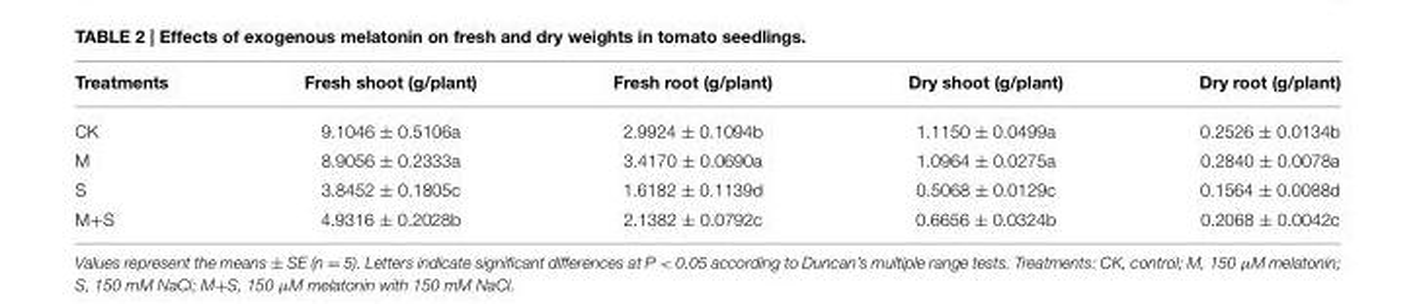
<table><thead><tr><td>Treatments</td><td>Fresh shoot (g/plant)</td><td>Fresh root (g/plant)</td><td>Dry shoot (g/plant)</td><td>Dry root (g/plant)</td></tr></thead><tbody><tr><td>CK</td><td>9.1046 ± 0.5106a</td><td>2.9924 ± 0.1094b</td><td>1.1150 ± 0.0499a</td><td>0.2526 ± 0.0134b</td></tr><tr><td>M</td><td>8.9056 ± 0.2333a</td><td>3.4170 ± 0.0690a</td><td>1.0964 ± 0.0275a</td><td>0.2840 ± 0.0078a</td></tr><tr><td>S</td><td>3.8452 ± 0.1805c</td><td>1.6182 ± 0.1139d</td><td>0.5068 ± 0.0129c</td><td>0.1564 ± 0.0088d</td></tr><tr><td>M+S</td><td>4.9316 ± 0.2028b</td><td>2.1382 ± 0.0792c</td><td>0.6656 ± 0.0324b</td><td>0.2068 ± 0.0042c</td></tr></tbody></table>